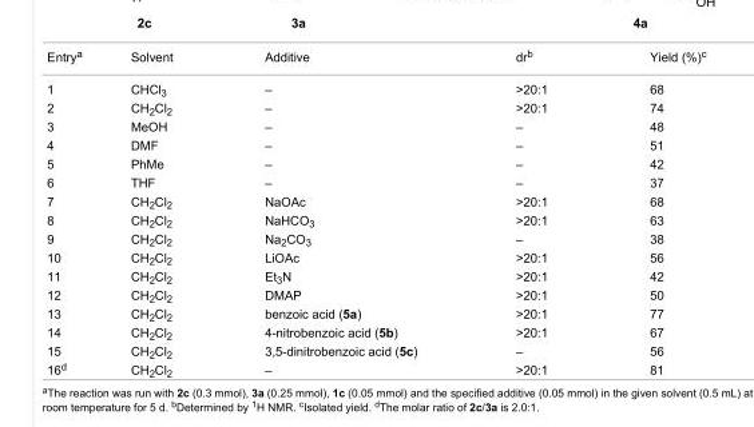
<table><tbody><tr><td>Entry<sup>a</sup></td><td>Solvent</td><td>Additive</td><td>dr<sup>b</sup></td><td>Yield (%)<sup>c</sup></td></tr><tr><td>1</td><td>CHCl<sub>3</sub></td><td>–</td><td>&gt;20:1</td><td>68</td></tr><tr><td>2</td><td>CH<sub>2</sub>Cl<sub>2</sub></td><td>–</td><td>&gt;20:1</td><td>74</td></tr><tr><td>3</td><td>MeOH</td><td>–</td><td>–</td><td>48</td></tr><tr><td>4</td><td>DMF</td><td>–</td><td>–</td><td>51</td></tr><tr><td>5</td><td>PhMe</td><td>–</td><td>–</td><td>42</td></tr><tr><td>6</td><td>THF</td><td>–</td><td>–</td><td>37</td></tr><tr><td>7</td><td>CH<sub>2</sub>Cl<sub>2</sub></td><td>NaOAc</td><td>&gt;20:1</td><td>68</td></tr><tr><td>8</td><td>CH<sub>2</sub>Cl<sub>2</sub></td><td>NaHCO<sub>3</sub></td><td>&gt;20:1</td><td>63</td></tr><tr><td>9</td><td>CH<sub>2</sub>Cl<sub>2</sub></td><td>Na<sub>2</sub>CO<sub>3</sub></td><td>–</td><td>38</td></tr><tr><td>10</td><td>CH<sub>2</sub>Cl<sub>2</sub></td><td>LiOAc</td><td>&gt;20:1</td><td>56</td></tr><tr><td>11</td><td>CH<sub>2</sub>Cl<sub>2</sub></td><td>Et<sub>3</sub>N</td><td>&gt;20:1</td><td>42</td></tr><tr><td>12</td><td>CH<sub>2</sub>Cl<sub>2</sub></td><td>DMAP</td><td>&gt;20:1</td><td>50</td></tr><tr><td>13</td><td>CH<sub>2</sub>Cl<sub>2</sub></td><td>benzoic acid (5a)</td><td>&gt;20:1</td><td>77</td></tr><tr><td>14</td><td>CH<sub>2</sub>Cl<sub>2</sub></td><td>4-nitrobenzoic acid (5b)</td><td>&gt;20:1</td><td>67</td></tr><tr><td>15</td><td>CH<sub>2</sub>Cl<sub>2</sub></td><td>3,5-dinitrobenzoic acid (5c)</td><td>–</td><td>56</td></tr><tr><td>16<sup>d</sup></td><td>CH<sub>2</sub>Cl<sub>2</sub></td><td>–</td><td>&gt;20:1</td><td>81</td></tr></tbody></table>